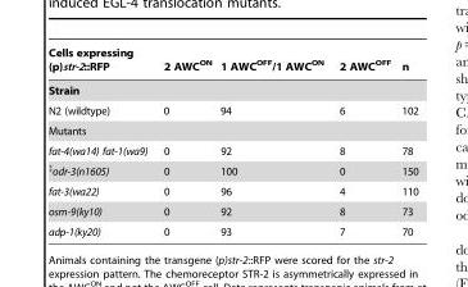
<table><thead><tr><td>Cells expressing (p)str-2::RFP</td><td>2 AWC<sup>ON</sup></td><td>1 AWC<sup>OFF</sup>/1 AWC<sup>ON</sup></td><td>2 AWC<sup>OFF</sup></td><td>n</td></tr></thead><tbody><tr><td colspan="5">Strain</td></tr><tr><td>N2 (wildtype)</td><td>0</td><td>94</td><td>6</td><td>102</td></tr><tr><td colspan="5">Mutants</td></tr><tr><td>fat-4(wa14) fat-1(wa9)</td><td>0</td><td>92</td><td>8</td><td>78</td></tr><tr><td>‡odr-3(n1605)</td><td>0</td><td>100</td><td>0</td><td>150</td></tr><tr><td>fat-3(wa22)</td><td>0</td><td>96</td><td>4</td><td>110</td></tr><tr><td>osm-9(ky10)</td><td>0</td><td>92</td><td>8</td><td>73</td></tr><tr><td>adp-1(ky20)</td><td>0</td><td>93</td><td>7</td><td>70</td></tr></tbody></table>